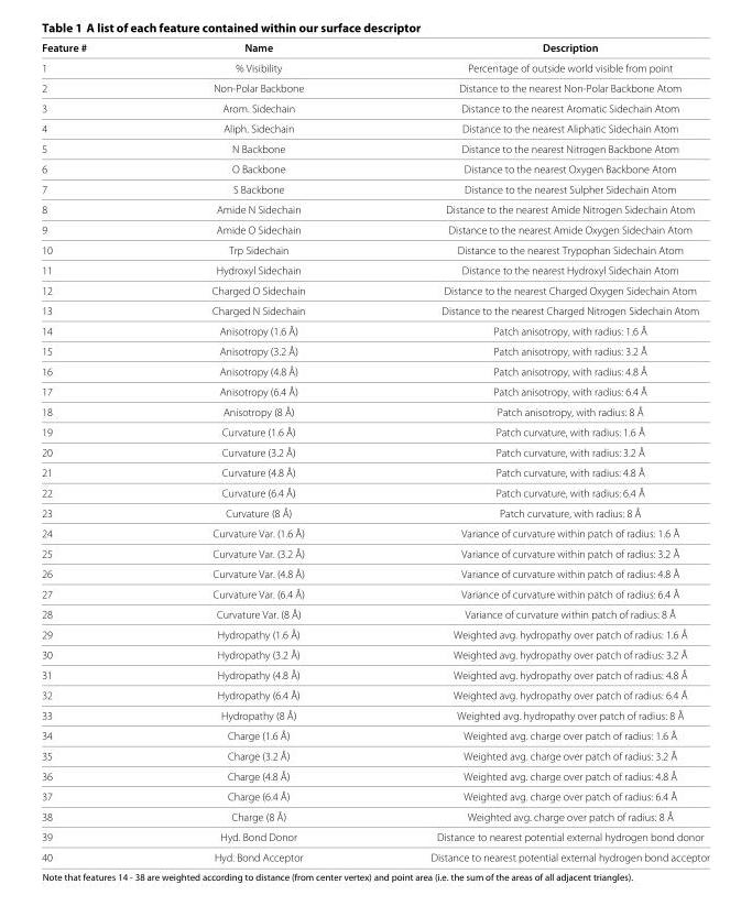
<table><thead><tr><td>Feature #</td><td>Name</td><td>Description</td></tr></thead><tbody><tr><td>1</td><td>% Visibility</td><td>Percentage of outside world visible from point</td></tr><tr><td>2</td><td>Non-Polar Backbone</td><td>Distance to the nearest Non-Polar Backbone Atom</td></tr><tr><td>3</td><td>Arom. Sidechain</td><td>Distance to the nearest Aromatic Sidechain Atom</td></tr><tr><td>4</td><td>Aliph. Sidechain</td><td>Distance to the nearest Aliphatic Sidechain Atom</td></tr><tr><td>5</td><td>N Backbone</td><td>Distance to the nearest Nitrogen Backbone Atom</td></tr><tr><td>6</td><td>O Backbone</td><td>Distance to the nearest Oxygen Backbone Atom</td></tr><tr><td>7</td><td>S Backbone</td><td>Distance to the nearest Sulpher Sidechain Atom</td></tr><tr><td>8</td><td>Amide N Sidechain</td><td>Distance to the nearest Amide Nitrogen Sidechain Atom</td></tr><tr><td>9</td><td>Amide O Sidechain</td><td>Distance to the nearest Amide Oxygen Sidechain Atom</td></tr><tr><td>10</td><td>Trp Sidechain</td><td>Distance to the nearest Trypophan Sidechain Atom</td></tr><tr><td>11</td><td>Hydroxyl Sidechain</td><td>Distance to the nearest Hydroxyl Sidechain Atom</td></tr><tr><td>12</td><td>Charged O Sidechain</td><td>Distance to the nearest Charged Oxygen Sidechain Atom</td></tr><tr><td>13</td><td>Charged N Sidechain</td><td>Distance to the nearest Charged Nitrogen Sidechain Atom</td></tr><tr><td>14</td><td>Anisotropy (1.6 ˚A)</td><td>Patch anisotropy, with radius: 1.6 ˚A</td></tr><tr><td>15</td><td>Anisotropy (3.2 ˚A)</td><td>Patch anisotropy, with radius: 3.2 ˚A</td></tr><tr><td>16</td><td>Anisotropy (4.8 ˚A)</td><td>Patch anisotropy, with radius: 4.8 ˚A</td></tr><tr><td>17</td><td>Anisotropy (6.4 ˚A)</td><td>Patch anisotropy, with radius: 6.4 ˚A</td></tr><tr><td>18</td><td>Anisotropy (8 ˚A)</td><td>Patch anisotropy, with radius: 8 ˚A</td></tr><tr><td>19</td><td>Curvature (1.6 ˚A)</td><td>Patch curvature, with radius: 1.6 ˚A</td></tr><tr><td>20</td><td>Curvature (3.2 ˚A)</td><td>Patch curvature, with radius: 3.2 ˚A</td></tr><tr><td>21</td><td>Curvature (4.8 ˚A)</td><td>Patch curvature, with radius: 4.8 ˚A</td></tr><tr><td>22</td><td>Curvature (6.4 ˚A)</td><td>Patch curvature, with radius: 6.4 ˚A</td></tr><tr><td>23</td><td>Curvature (8 ˚A)</td><td>Patch curvature, with radius: 8 ˚A</td></tr><tr><td>24</td><td>Curvature Var. (1.6 ˚A)</td><td>Variance of curvature within patch of radius: 1.6 ˚A</td></tr><tr><td>25</td><td>Curvature Var. (3.2 ˚A)</td><td>Variance of curvature within patch of radius: 3.2 ˚A</td></tr><tr><td>26</td><td>Curvature Var. (4.8 ˚A)</td><td>Variance of curvature within patch of radius: 4.8 ˚A</td></tr><tr><td>27</td><td>Curvature Var. (6.4 ˚A)</td><td>Variance of curvature within patch of radius: 6.4 ˚A</td></tr><tr><td>28</td><td>Curvature Var. (8 ˚A)</td><td>Variance of curvature within patch of radius: 8 ˚A</td></tr><tr><td>29</td><td>Hydropathy (1.6 ˚A)</td><td>Weighted avg. hydropathy over patch of radius: 1.6 ˚A</td></tr><tr><td>30</td><td>Hydropathy (3.2 ˚A)</td><td>Weighted avg. hydropathy over patch of radius: 3.2 ˚A</td></tr><tr><td>31</td><td>Hydropathy (4.8 ˚A)</td><td>Weighted avg. hydropathy over patch of radius: 4.8 ˚A</td></tr><tr><td>32</td><td>Hydropathy (6.4 ˚A)</td><td>Weighted avg. hydropathy over patch of radius: 6.4 ˚A</td></tr><tr><td>33</td><td>Hydropathy (8 ˚A)</td><td>Weighted avg. hydropathy over patch of radius: 8 ˚A</td></tr><tr><td>34</td><td>Charge (1.6 ˚A)</td><td>Weighted avg. charge over patch of radius: 1.6 ˚A</td></tr><tr><td>35</td><td>Charge (3.2 ˚A)</td><td>Weighted avg. charge over patch of radius: 3.2 ˚A</td></tr><tr><td>36</td><td>Charge (4.8 ˚A)</td><td>Weighted avg. charge over patch of radius: 4.8 ˚A</td></tr><tr><td>37</td><td>Charge (6.4 ˚A)</td><td>Weighted avg. charge over patch of radius: 6.4 ˚A</td></tr><tr><td>38</td><td>Charge (8 ˚A)</td><td>Weighted avg. charge over patch of radius: 8 ˚A</td></tr><tr><td>39</td><td>Hyd. Bond Donor</td><td>Distance to nearest potential external hydrogen bond donor</td></tr><tr><td>40</td><td>Hyd. Bond Acceptor</td><td>Distance to nearest potential external hydrogen bond acceptor</td></tr></tbody></table>